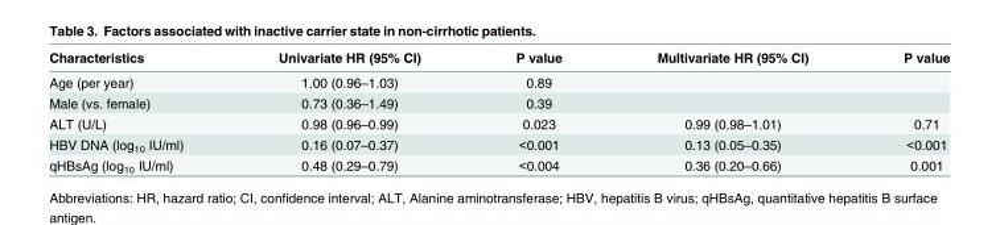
<table><thead><tr><td>Characteristics</td><td>Univariate HR (95% CI)</td><td>P value</td><td>Multivariate HR (95% CI)</td><td>P value</td></tr></thead><tbody><tr><td>Age (per year)</td><td>1.00 (0.96–1.03)</td><td>0.89</td><td></td><td></td></tr><tr><td>Male (vs. female)</td><td>0.73 (0.36–1.49)</td><td>0.39</td><td></td><td></td></tr><tr><td>ALT (U/L)</td><td>0.98 (0.96–0.99)</td><td>0.023</td><td>0.99 (0.98–1.01)</td><td>0.71</td></tr><tr><td>HBV DNA (log<sub>10</sub> IU/ml)</td><td>0.16 (0.07–0.37)</td><td>&lt;0.001</td><td>0.13 (0.05–0.35)</td><td>&lt;0.001</td></tr><tr><td>qHBsAg (log<sub>10</sub> IU/ml)</td><td>0.48 (0.29–0.79)</td><td>&lt;0.004</td><td>0.36 (0.20–0.66)</td><td>0.001</td></tr></tbody></table>